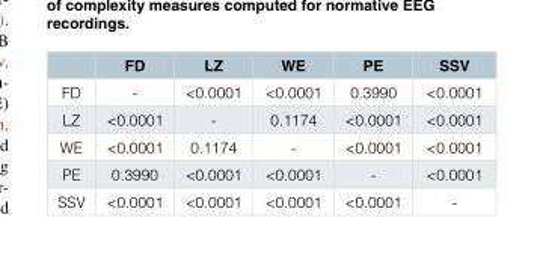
<table><thead><tr><td></td><td>FD</td><td>LZ</td><td>WE</td><td>PE</td><td>SSV</td></tr></thead><tbody><tr><td>FD</td><td>-</td><td>&lt;0.0001</td><td>&lt;0.0001</td><td>0.3990</td><td>&lt;0.0001</td></tr><tr><td>LZ</td><td>&lt;0.0001</td><td>-</td><td>0.1174</td><td>&lt;0.0001</td><td>&lt;0.0001</td></tr><tr><td>WE</td><td>&lt;0.0001</td><td>0.1174</td><td>-</td><td>&lt;0.0001</td><td>&lt;0.0001</td></tr><tr><td>PE</td><td>0.3990</td><td>&lt;0.0001</td><td>&lt;0.0001</td><td>-</td><td>&lt;0.0001</td></tr><tr><td>SSV</td><td>&lt;0.0001</td><td>&lt;0.0001</td><td>&lt;0.0001</td><td>&lt;0.0001</td><td>-</td></tr></tbody></table>